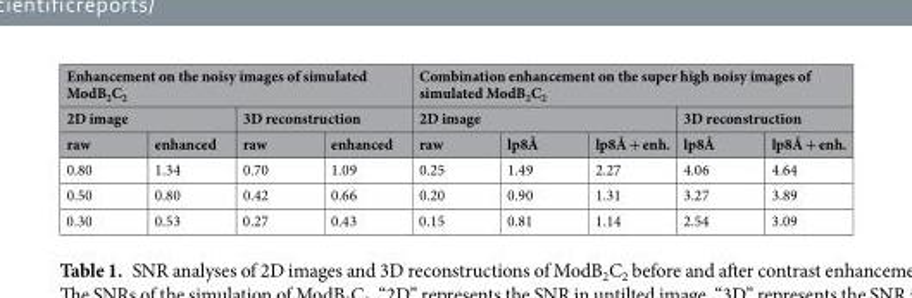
<table><thead><tr><td colspan="4">Enhancement on the noisy images of simulated ModB<sub>2</sub>C<sub>2</sub></td><td colspan="5">Combination enhancement on the super high noisy images of simulated ModB<sub>2</sub>C<sub>2</sub></td></tr><tr><td colspan="2">2D image</td><td colspan="2">3D reconstruction</td><td colspan="3">2D image</td><td colspan="2">3D reconstruction</td></tr><tr><td>raw</td><td>enhanced</td><td>raw</td><td>enhanced</td><td>raw</td><td>lp8Å</td><td>lp8Å + enh.</td><td>lp8Å</td><td>lp8Å + enh.</td></tr></thead><tbody><tr><td>0.80</td><td>1.34</td><td>0.70</td><td>1.09</td><td>0.25</td><td>1.49</td><td>2.27</td><td>4.06</td><td>4.64</td></tr><tr><td>0.50</td><td>0.80</td><td>0.42</td><td>0.66</td><td>0.20</td><td>0.90</td><td>1.31</td><td>3.27</td><td>3.89</td></tr><tr><td>0.30</td><td>0.53</td><td>0.27</td><td>0.43</td><td>0.15</td><td>0.81</td><td>1.14</td><td>2.54</td><td>3.09</td></tr></tbody></table>